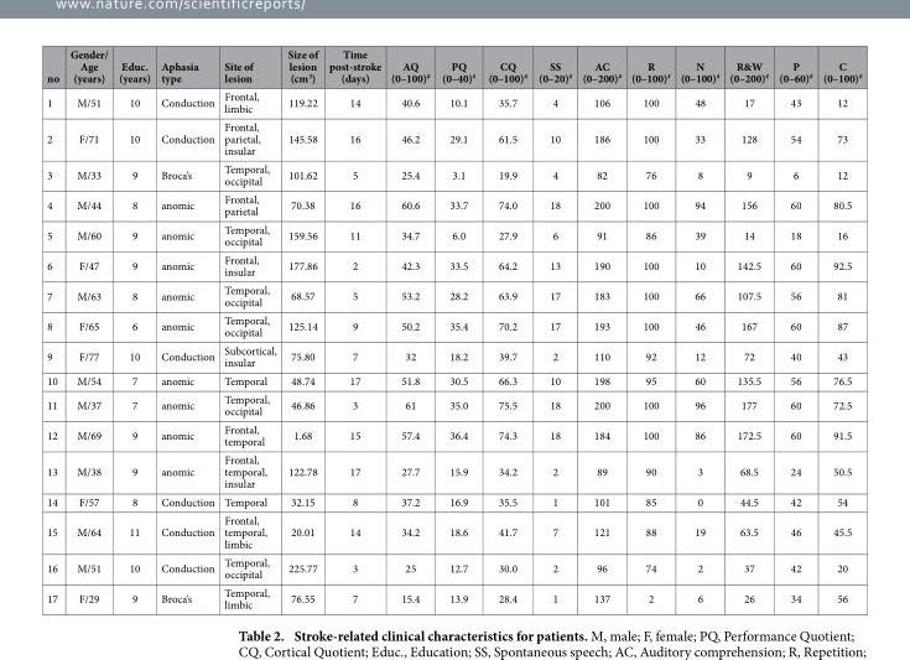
<table><thead><tr><td>no</td><td>Gender/ Age (years)</td><td>Educ. (years)</td><td>Aphasia type</td><td>Site of lesion</td><td>Size of lesion (cm<sup>3</sup>)</td><td>Time post-stroke (days)</td><td>AQ (0–100)#</td><td>PQ (0–40)#</td><td>CQ (0–100)#</td><td>SS (0–20)#</td><td>AC (0–200)#</td><td>R (0–100)#</td><td>N (0–100)#</td><td>R&amp;W (0–200)#</td><td>P (0–60)#</td><td>C (0–100)#</td></tr></thead><tbody><tr><td>1</td><td>M/51</td><td>10</td><td>Conduction</td><td>Frontal, limbic</td><td>119.22</td><td>14</td><td>40.6</td><td>10.1</td><td>35.7</td><td>4</td><td>106</td><td>100</td><td>48</td><td>17</td><td>43</td><td>12</td></tr><tr><td>2</td><td>F/71</td><td>10</td><td>Conduction</td><td>Frontal, parietal, insular</td><td>145.58</td><td>16</td><td>46.2</td><td>29.1</td><td>61.5</td><td>10</td><td>186</td><td>100</td><td>33</td><td>128</td><td>54</td><td>73</td></tr><tr><td>3</td><td>M/33</td><td>9</td><td>Broca’s</td><td>Temporal, occipital</td><td>101.62</td><td>5</td><td>25.4</td><td>3.1</td><td>19.9</td><td>4</td><td>82</td><td>76</td><td>8</td><td>9</td><td>6</td><td>12</td></tr><tr><td>4</td><td>M/44</td><td>8</td><td>anomic</td><td>Frontal, parietal</td><td>70.38</td><td>16</td><td>60.6</td><td>33.7</td><td>74.0</td><td>18</td><td>200</td><td>100</td><td>94</td><td>156</td><td>60</td><td>80.5</td></tr><tr><td>5</td><td>M/60</td><td>9</td><td>anomic</td><td>Temporal, occipital</td><td>159.56</td><td>11</td><td>34.7</td><td>6.0</td><td>27.9</td><td>6</td><td>91</td><td>86</td><td>39</td><td>14</td><td>18</td><td>16</td></tr><tr><td>6</td><td>F/47</td><td>9</td><td>anomic</td><td>Frontal, insular</td><td>177.86</td><td>2</td><td>42.3</td><td>33.5</td><td>64.2</td><td>13</td><td>190</td><td>100</td><td>10</td><td>142.5</td><td>60</td><td>92.5</td></tr><tr><td>7</td><td>M/63</td><td>8</td><td>anomic</td><td>Temporal, occipital</td><td>68.57</td><td>5</td><td>53.2</td><td>28.2</td><td>63.9</td><td>17</td><td>183</td><td>100</td><td>66</td><td>107.5</td><td>56</td><td>81</td></tr><tr><td>8</td><td>F/65</td><td>6</td><td>anomic</td><td>Temporal, occipital</td><td>125.14</td><td>9</td><td>50.2</td><td>35.4</td><td>70.2</td><td>17</td><td>193</td><td>100</td><td>46</td><td>167</td><td>60</td><td>87</td></tr><tr><td>9</td><td>F/77</td><td>10</td><td>Conduction</td><td>Subcortical, insular</td><td>75.80</td><td>7</td><td>32</td><td>18.2</td><td>39.7</td><td>2</td><td>110</td><td>92</td><td>12</td><td>72</td><td>40</td><td>43</td></tr><tr><td>10</td><td>M/54</td><td>7</td><td>anomic</td><td>Temporal</td><td>48.74</td><td>17</td><td>51.8</td><td>30.5</td><td>66.3</td><td>10</td><td>198</td><td>95</td><td>60</td><td>135.5</td><td>56</td><td>76.5</td></tr><tr><td>11</td><td>M/37</td><td>7</td><td>anomic</td><td>Temporal, occipital</td><td>46.86</td><td>3</td><td>61</td><td>35.0</td><td>75.5</td><td>18</td><td>200</td><td>100</td><td>96</td><td>177</td><td>60</td><td>72.5</td></tr><tr><td>12</td><td>M/69</td><td>9</td><td>anomic</td><td>Frontal, temporal</td><td>1.68</td><td>15</td><td>57.4</td><td>36.4</td><td>74.3</td><td>18</td><td>184</td><td>100</td><td>86</td><td>172.5</td><td>60</td><td>91.5</td></tr><tr><td>13</td><td>M/38</td><td>9</td><td>anomic</td><td>Frontal, temporal, insular</td><td>122.78</td><td>17</td><td>27.7</td><td>15.9</td><td>34.2</td><td>2</td><td>89</td><td>90</td><td>3</td><td>68.5</td><td>24</td><td>50.5</td></tr><tr><td>14</td><td>F/57</td><td>8</td><td>Conduction</td><td>Temporal</td><td>32.15</td><td>8</td><td>37.2</td><td>16.9</td><td>35.5</td><td>1</td><td>101</td><td>85</td><td>0</td><td>44.5</td><td>42</td><td>54</td></tr><tr><td>15</td><td>M/64</td><td>11</td><td>Conduction</td><td>Frontal, temporal, limbic</td><td>20.01</td><td>14</td><td>34.2</td><td>18.6</td><td>41.7</td><td>7</td><td>121</td><td>88</td><td>19</td><td>63.5</td><td>46</td><td>45.5</td></tr><tr><td>16</td><td>M/51</td><td>10</td><td>Conduction</td><td>Temporal, occipital</td><td>225.77</td><td>3</td><td>25</td><td>12.7</td><td>30.0</td><td>2</td><td>96</td><td>74</td><td>2</td><td>37</td><td>42</td><td>20</td></tr><tr><td>17</td><td>F/29</td><td>9</td><td>Broca’s</td><td>Temporal, limbic</td><td>76.55</td><td>7</td><td>15.4</td><td>13.9</td><td>28.4</td><td>1</td><td>137</td><td>2</td><td>6</td><td>26</td><td>34</td><td>56</td></tr></tbody></table>